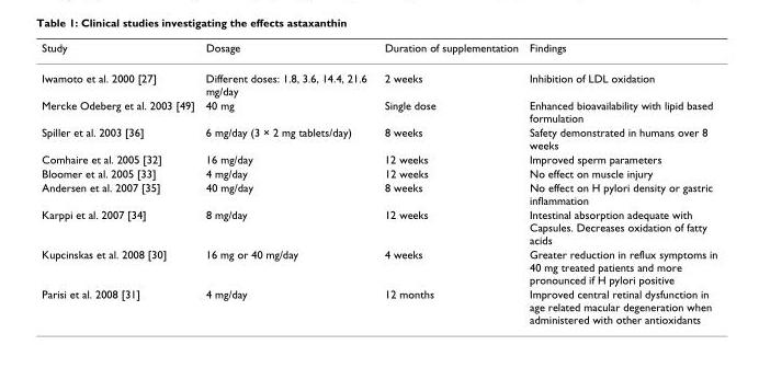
<table><thead><tr><td>Study</td><td>Dosage</td><td>Duration of supplementation</td><td>Findings</td></tr></thead><tbody><tr><td>Iwamoto et al. 2000 [27]</td><td>Different doses: 1.8, 3.6, 14.4, 21.6 mg/day</td><td>2 weeks</td><td>Inhibition of LDL oxidation</td></tr><tr><td>Mercke Odeberg et al. 2003 [49]</td><td>40 mg</td><td>Single dose</td><td>Enhanced bioavailability with lipid based formulation</td></tr><tr><td>Spiller et al. 2003 [36]</td><td>6 mg/day (3 × 2 mg tablets/day)</td><td>8 weeks</td><td>Safety demonstrated in humans over 8 weeks</td></tr><tr><td>Comhaire et al. 2005 [32]</td><td>16 mg/day</td><td>12 weeks</td><td>Improved sperm parameters</td></tr><tr><td>Bloomer et al. 2005 [33]</td><td>4 mg/day</td><td>12 weeks</td><td>No effect on muscle injury</td></tr><tr><td>Andersen et al. 2007 [35]</td><td>40 mg/day</td><td>8 weeks</td><td>No effect on H pylori density or gastric inflammation</td></tr><tr><td>Karppi et al. 2007 [34]</td><td>8 mg/day</td><td>12 weeks</td><td>Intestinal absorption adequate with Capsules. Decreases oxidation of fatty acids</td></tr><tr><td>Kupcinskas et al. 2008 [30]</td><td>16 mg or 40 mg/day</td><td>4 weeks</td><td>Greater reduction in reflux symptoms in 40 mg treated patients and more pronounced if H pylori positive</td></tr><tr><td>Parisi et al. 2008 [31]</td><td>4 mg/day</td><td>12 months</td><td>Improved central retinal dysfunction in age related macular degeneration when administered with other antioxidants</td></tr></tbody></table>